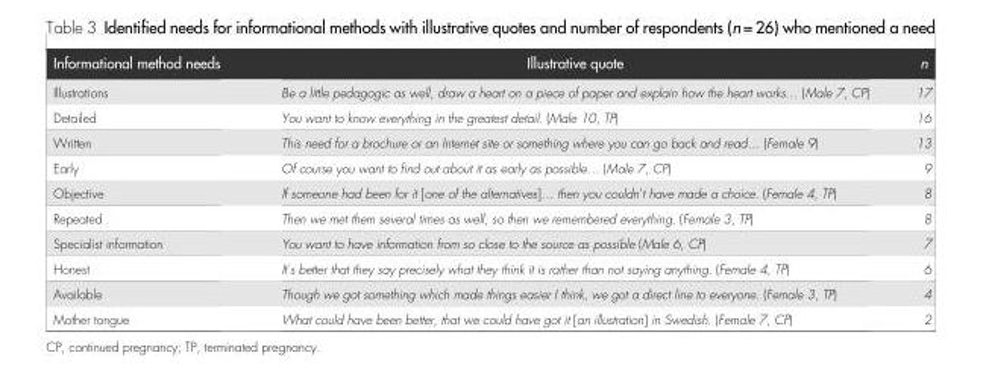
<table><thead><tr><td>Informational method needs</td><td>Illustrative quote</td><td>n</td></tr></thead><tbody><tr><td>Illustrations</td><td>Be a little pedagogic as well, draw a heart on a piece of paper and explain how the heart works… (Male 7, CP)</td><td>17</td></tr><tr><td>Detailed</td><td>You want to know everything in the greatest detail. (Male 10, TP)</td><td>16</td></tr><tr><td>Written</td><td>This need for a brochure or an Internet site or something where you can go back and read… (Female 9)</td><td>13</td></tr><tr><td>Early</td><td>Of course you want to find out about it as early as possible… (Male 7, CP)</td><td>9</td></tr><tr><td>Objective</td><td>If someone had been for it [one of the alternatives]… then you couldn’t have made a choice. (Female 4, TP)</td><td>8</td></tr><tr><td>Repeated</td><td>Then we met them several times as well, so then we remembered everything. (Female 3, TP)</td><td>8</td></tr><tr><td>Specialist information</td><td>You want to have information from so close to the source as possible (Male 6, CP)</td><td>7</td></tr><tr><td>Honest</td><td>It’s better that they say precisely what they think it is rather than not saying anything. (Female 4, TP)</td><td>6</td></tr><tr><td>Available</td><td>Though we got something which made things easier I think, we got a direct line to everyone. (Female 3, TP)</td><td>4</td></tr><tr><td>Mother tongue</td><td>What could have been better, that we could have got it [an illustration] in Swedish. (Female 7, CP)</td><td>2</td></tr></tbody></table>